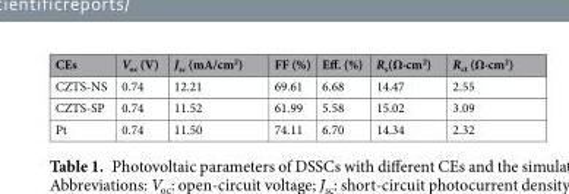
<table><thead><tr><td>CEs</td><td>V<sub>oc</sub> (V)</td><td>J<sub>sc</sub> (mA/cm<sup>2</sup>)</td><td>FF (%)</td><td>Eff. (%)</td><td>R<sub>s</sub>(Ω·cm<sup>2</sup>)</td><td>R<sub>ct</sub> (Ω·cm<sup>2</sup>)</td></tr></thead><tbody><tr><td>CZTS-NS</td><td>0.74</td><td>12.21</td><td>69.61</td><td>6.68</td><td>14.47</td><td>2.55</td></tr><tr><td>CZTS-SP</td><td>0.74</td><td>11.52</td><td>61.99</td><td>5.58</td><td>15.02</td><td>3.09</td></tr><tr><td>Pt</td><td>0.74</td><td>11.50</td><td>74.11</td><td>6.70</td><td>14.34</td><td>2.32</td></tr></tbody></table>